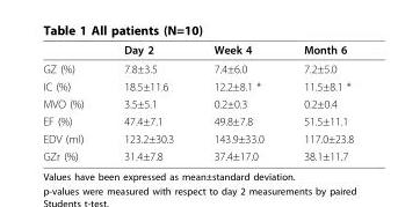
<table><thead><tr><td></td><td>Day 2</td><td>Week 4</td><td>Month 6</td></tr></thead><tbody><tr><td>GZ (%)</td><td>7.8±3.5</td><td>7.4±6.0</td><td>7.2±5.0</td></tr><tr><td>IC (%)</td><td>18.5±11.6</td><td>12.2±8.1 *</td><td>11.5±8.1 *</td></tr><tr><td>MVO (%)</td><td>3.5±5.1</td><td>0.2±0.3</td><td>0.2±0.4</td></tr><tr><td>EF (%)</td><td>47.4±7.1</td><td>49.8±7.8</td><td>51.5±11.1</td></tr><tr><td>EDV (ml)</td><td>123.2±30.3</td><td>143.9±33.0</td><td>117.0±23.8</td></tr><tr><td>GZr (%)</td><td>31.4±7.8</td><td>37.4±17.0</td><td>38.1±11.7</td></tr></tbody></table>